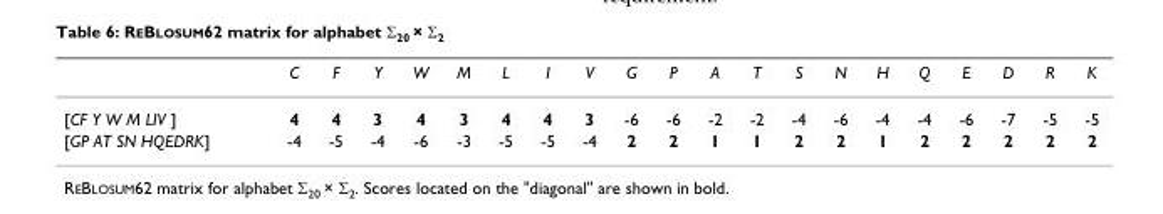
<table><thead><tr><td></td><td>C</td><td>F</td><td>Y</td><td>W</td><td>M</td><td>L</td><td>I</td><td>V</td><td>G</td><td>P</td><td>A</td><td>T</td><td>S</td><td>N</td><td>H</td><td>Q</td><td>E</td><td>D</td><td>R</td><td>K</td></tr></thead><tbody><tr><td>[CF Y W M LIV ]</td><td>4</td><td>4</td><td>3</td><td>4</td><td>3</td><td>4</td><td>4</td><td>3</td><td>-6</td><td>-6</td><td>-2</td><td>-2</td><td>-4</td><td>-6</td><td>-4</td><td>-4</td><td>-6</td><td>-7</td><td>-5</td><td>-5</td></tr><tr><td>[GP AT SN HQEDRK]</td><td>-4</td><td>-5</td><td>-4</td><td>-6</td><td>-3</td><td>-5</td><td>-5</td><td>-4</td><td>2</td><td>2</td><td>1</td><td>1</td><td>2</td><td>2</td><td>1</td><td>2</td><td>2</td><td>2</td><td>2</td><td>2</td></tr></tbody></table>